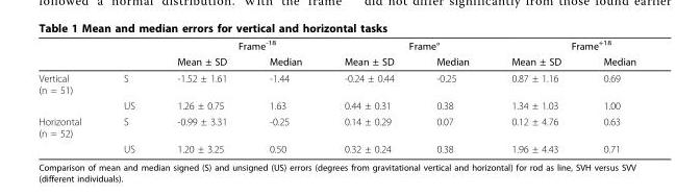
<table><thead><tr><td rowspan="2"></td><td rowspan="2"></td><td colspan="2">Frame<sup>-18</sup></td><td colspan="2">Frame°</td><td colspan="2">Frame<sup>+18</sup></td></tr><tr><td>Mean ± SD</td><td>Median</td><td>Mean ± SD</td><td>Median</td><td>Mean ± SD</td><td>Median</td></tr></thead><tbody><tr><td rowspan="2">Vertical (n = 51)</td><td>S</td><td>-1.52 ± 1.61</td><td>-1.44</td><td>-0.24 ± 0.44</td><td>-0.25</td><td>0.87 ± 1.16</td><td>0.69</td></tr><tr><td>US</td><td>1.26 ± 0.75</td><td>1.63</td><td>0.44 ± 0.31</td><td>0.38</td><td>1.34 ± 1.03</td><td>1.00</td></tr><tr><td rowspan="2">Horizontal (n = 52)</td><td>S</td><td>-0.99 ± 3.31</td><td>-0.25</td><td>0.14 ± 0.29</td><td>0.07</td><td>0.12 ± 4.76</td><td>0.63</td></tr><tr><td>US</td><td>1.20 ± 3.25</td><td>0.50</td><td>0.32 ± 0.24</td><td>0.38</td><td>1.96 ± 4.43</td><td>0.71</td></tr></tbody></table>